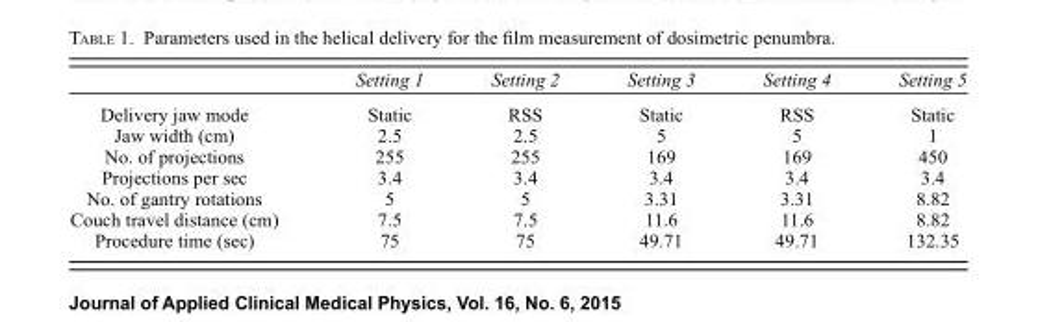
<table><thead><tr><td></td><td>Setting 1</td><td>Setting 2</td><td>Setting 3</td><td>Setting 4</td><td>Setting 5</td></tr></thead><tbody><tr><td>Delivery jaw mode</td><td>Static</td><td>RSS</td><td>Static</td><td>RSS</td><td>Static</td></tr><tr><td>Jaw width (cm)</td><td>2.5</td><td>2.5</td><td>5</td><td>5</td><td>1</td></tr><tr><td>No. of projections</td><td>255</td><td>255</td><td>169</td><td>169</td><td>450</td></tr><tr><td>Projections per sec</td><td>3.4</td><td>3.4</td><td>3.4</td><td>3.4</td><td>3.4</td></tr><tr><td>No. of gantry rotations</td><td>5</td><td>5</td><td>3.31</td><td>3.31</td><td>8.82</td></tr><tr><td>Couch travel distance (cm)</td><td>7.5</td><td>7.5</td><td>11.6</td><td>11.6</td><td>8.82</td></tr><tr><td>Procedure time (sec)</td><td>75</td><td>75</td><td>49.71</td><td>49.71</td><td>132.35</td></tr></tbody></table>